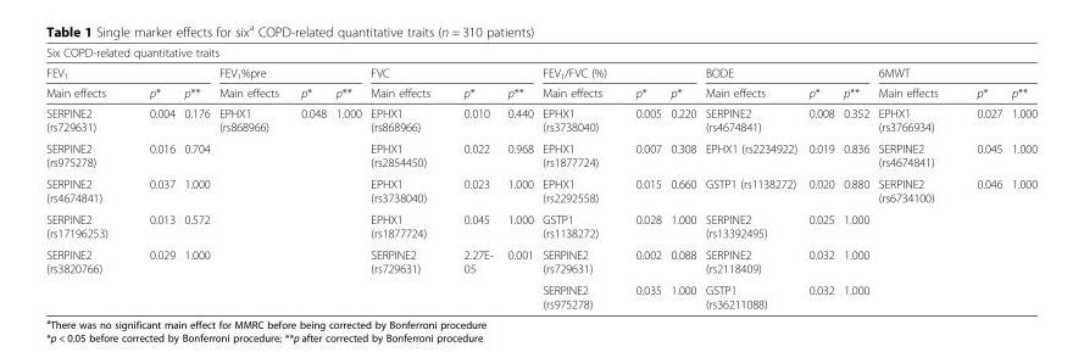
<table><thead><tr><td colspan="18">Six COPD-related quantitative traits</td></tr><tr><td colspan="3">FEV<sub>1</sub></td><td colspan="3">FEV<sub>1</sub>%pre</td><td colspan="3">FVC</td><td colspan="3">FEV<sub>1</sub>/FVC (%)</td><td colspan="3">BODE</td><td colspan="3">6MWT</td></tr><tr><td>Main effects</td><td>p*</td><td>p**</td><td>Main effects</td><td>p*</td><td>p**</td><td>Main effects</td><td>p*</td><td>p**</td><td>Main effects</td><td>p*</td><td>p*</td><td>Main effects</td><td>p*</td><td>p**</td><td>Main effects</td><td>p*</td><td>p**</td></tr></thead><tbody><tr><td>SERPINE2 (rs729631)</td><td>0.004</td><td>0.176</td><td>EPHX1 (rs868966)</td><td>0.048</td><td>1.000</td><td>EPHX1 (rs868966)</td><td>0.010</td><td>0.440</td><td>EPHX1 (rs3738040)</td><td>0.005</td><td>0.220</td><td>SERPINE2 (rs4674841)</td><td>0.008</td><td>0.352</td><td>EPHX1 (rs3766934)</td><td>0.027</td><td>1.000</td></tr><tr><td>SERPINE2 (rs975278)</td><td>0.016</td><td>0.704</td><td></td><td></td><td></td><td>EPHX1 (rs2854450)</td><td>0.022</td><td>0.968</td><td>EPHX1 (rs1877724)</td><td>0.007</td><td>0.308</td><td>EPHX1 (rs2234922)</td><td>0.019</td><td>0.836</td><td>SERPINE2 (rs4674841)</td><td>0.045</td><td>1.000</td></tr><tr><td>SERPINE2 (rs4674841)</td><td>0.037</td><td>1.000</td><td></td><td></td><td></td><td>EPHX1 (rs3738040)</td><td>0.023</td><td>1.000</td><td>EPHX1 (rs2292558)</td><td>0.015</td><td>0.660</td><td>GSTP1 (rs1138272)</td><td>0.020</td><td>0.880</td><td>SERPINE2 (rs6734100)</td><td>0.046</td><td>1.000</td></tr><tr><td>SERPINE2 (rs17196253)</td><td>0.013</td><td>0.572</td><td></td><td></td><td></td><td>EPHX1 (rs1877724)</td><td>0.045</td><td>1.000</td><td>GSTP1 (rs1138272)</td><td>0.028</td><td>1.000</td><td>SERPINE2 (rs13392495)</td><td>0.025</td><td>1.000</td><td></td><td></td><td></td></tr><tr><td rowspan="2">SERPINE2 (rs3820766)</td><td>0.029</td><td>1.000</td><td></td><td></td><td></td><td>SERPINE2 (rs729631)</td><td>2.27E- 05</td><td>0.001</td><td>SERPINE2 (rs729631)</td><td>0.002</td><td>0.088</td><td>SERPINE2 (rs2118409)</td><td>0.032</td><td>1.000</td><td></td><td></td><td></td></tr><tr><td></td><td></td><td></td><td></td><td></td><td></td><td></td><td></td><td>SERPINE2 (rs975278)</td><td>0.035</td><td>1.000</td><td>GSTP1 (rs36211088)</td><td>0.032</td><td>1.000</td><td></td><td></td><td></td></tr></tbody></table>